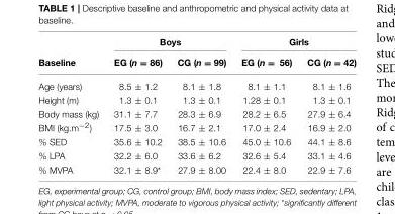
<table><thead><tr><td rowspan="2">Baseline</td><td colspan="2">Boys</td><td colspan="2">Girls</td></tr><tr><td>EG (n = 86)</td><td>CG (n = 99)</td><td>EG (n = 56)</td><td>CG (n = 42)</td></tr></thead><tbody><tr><td>Age (years)</td><td>8.5 ± 1.2</td><td>8.1 ± 1.8</td><td>8.1 ± 1.1</td><td>8.1 ± 1.6</td></tr><tr><td>Height (m)</td><td>1.3 ± 0.1</td><td>1.3 ± 0.1</td><td>1.28 ± 0.1</td><td>1.3 ± 0.1</td></tr><tr><td>Body mass (kg)</td><td>31.1 ± 7.7</td><td>28.3 ± 6.9</td><td>28.2 ± 6.5</td><td>27.9 ± 6.4</td></tr><tr><td>BMI (kg.m<sup>−2</sup>)</td><td>17.5 ± 3.0</td><td>16.7 ± 2.1</td><td>17.0 ± 2.4</td><td>16.9 ± 2.0</td></tr><tr><td>% SED</td><td>35.6 ± 10.2</td><td>38.5 ± 10.6</td><td>45.0 ± 10.6</td><td>44.1 ± 8.6</td></tr><tr><td>% LPA</td><td>32.2 ± 6.0</td><td>33.6 ± 6.2</td><td>32.6 ± 5.4</td><td>33.1 ± 4.6</td></tr><tr><td>% MVPA</td><td>32.1 ± 8.9*</td><td>27.9 ± 8.00</td><td>22.4 ± 8.0</td><td>22.9 ± 7.6</td></tr></tbody></table>